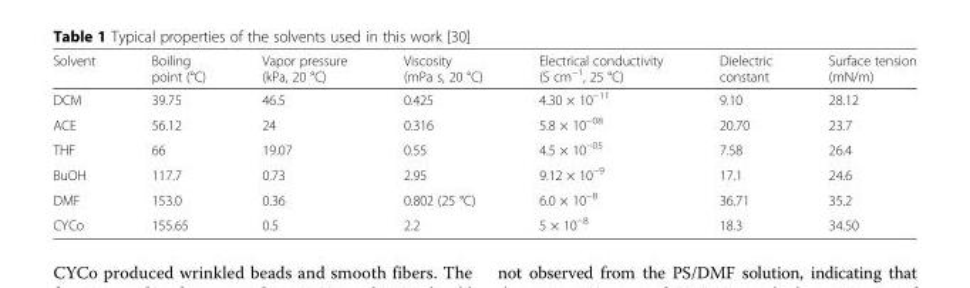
<table><thead><tr><td>Solvent</td><td>Boiling point (°C)</td><td>Vapor pressure (kPa, 20 °C)</td><td>Viscosity (mPa s, 20 °C)</td><td>Electrical conductivity (S cm<sup>−1</sup>, 25 °C)</td><td>Dielectric constant</td><td>Surface tension (mN/m)</td></tr></thead><tbody><tr><td>DCM</td><td>39.75</td><td>46.5</td><td>0.425</td><td>4.30 × 10<sup>−11</sup></td><td>9.10</td><td>28.12</td></tr><tr><td>ACE</td><td>56.12</td><td>24</td><td>0.316</td><td>5.8 × 10<sup>−08</sup></td><td>20.70</td><td>23.7</td></tr><tr><td>THF</td><td>66</td><td>19.07</td><td>0.55</td><td>4.5 × 10<sup>−05</sup></td><td>7.58</td><td>26.4</td></tr><tr><td>BuOH</td><td>117.7</td><td>0.73</td><td>2.95</td><td>9.12 × 10<sup>−9</sup></td><td>17.1</td><td>24.6</td></tr><tr><td>DMF</td><td>153.0</td><td>0.36</td><td>0.802 (25 °C)</td><td>6.0 × 10<sup>−8</sup></td><td>36.71</td><td>35.2</td></tr><tr><td>CYCo</td><td>155.65</td><td>0.5</td><td>2.2</td><td>5 × 10<sup>−8</sup></td><td>18.3</td><td>34.50</td></tr></tbody></table>